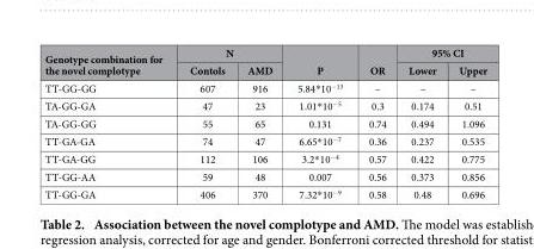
<table><thead><tr><td rowspan="2">Genotype combination for the novel complotype</td><td colspan="2">N</td><td rowspan="2">P</td><td rowspan="2">OR</td><td colspan="2">95% CI</td></tr><tr><td>Contols</td><td>AMD</td><td>Lower</td><td>Upper</td></tr></thead><tbody><tr><td>TT-GG-GG</td><td>607</td><td>916</td><td>5.84*10<sup>−13</sup></td><td>–</td><td>–</td><td>–</td></tr><tr><td>TA-GG-GA</td><td>47</td><td>23</td><td>1.01*10<sup>−5</sup></td><td>0.3</td><td>0.174</td><td>0.51</td></tr><tr><td>TA-GG-GG</td><td>55</td><td>65</td><td>0.131</td><td>0.74</td><td>0.494</td><td>1.096</td></tr><tr><td>TT-GA-GA</td><td>74</td><td>47</td><td>6.65*10<sup>−7</sup></td><td>0.36</td><td>0.237</td><td>0.535</td></tr><tr><td>TT-GA-GG</td><td>112</td><td>106</td><td>3.2*10<sup>−4</sup></td><td>0.57</td><td>0.422</td><td>0.775</td></tr><tr><td>TT-GG-AA</td><td>59</td><td>48</td><td>0.007</td><td>0.56</td><td>0.373</td><td>0.856</td></tr><tr><td>TT-GG-GA</td><td>406</td><td>370</td><td>7.32*10<sup>−9</sup></td><td>0.58</td><td>0.48</td><td>0.696</td></tr></tbody></table>